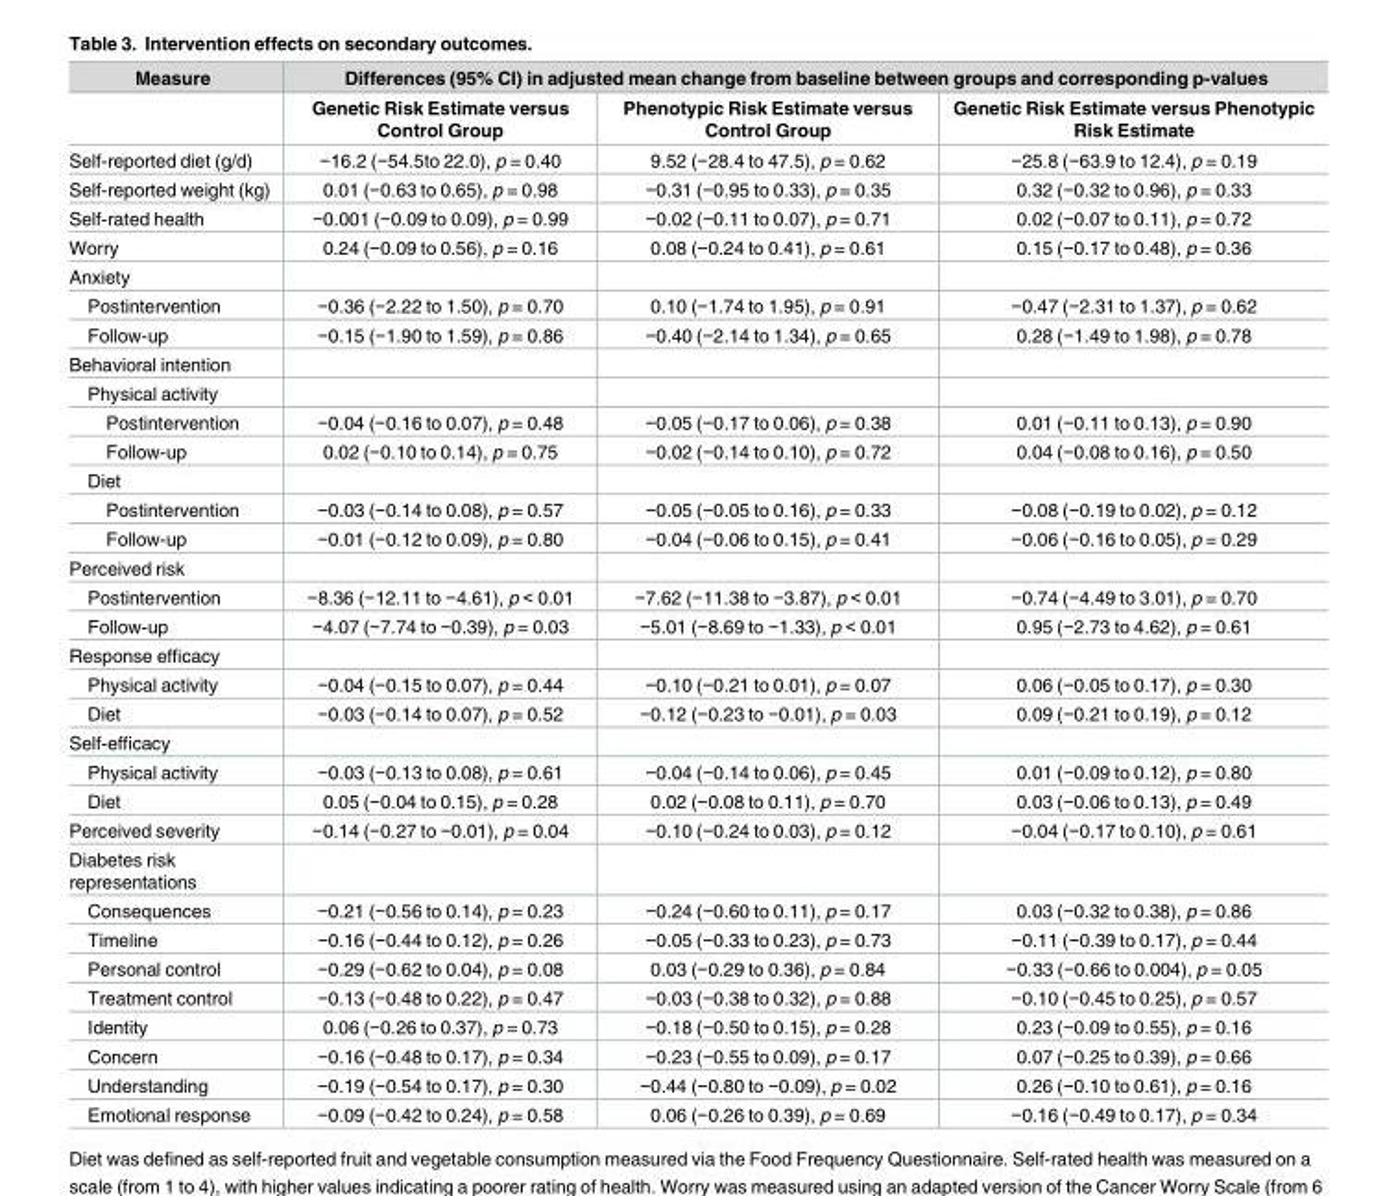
<table><thead><tr><td rowspan="2">Measure</td><td colspan="3">Differences (95% CI) in adjusted mean change from baseline between groups and corresponding p-values</td></tr><tr><td>Genetic Risk Estimate versus Control Group</td><td>Phenotypic Risk Estimate versus Control Group</td><td>Genetic Risk Estimate versus Phenotypic Risk Estimate</td></tr></thead><tbody><tr><td>Self-reported diet (g/d)</td><td>−16.2 (−54.5to 22.0), p = 0.40</td><td>9.52 (−28.4 to 47.5), p = 0.62</td><td>−25.8 (−63.9 to 12.4), p = 0.19</td></tr><tr><td>Self-reported weight (kg)</td><td>0.01 (−0.63 to 0.65), p = 0.98</td><td>−0.31 (−0.95 to 0.33), p = 0.35</td><td>0.32 (−0.32 to 0.96), p = 0.33</td></tr><tr><td>Self-rated health</td><td>−0.001 (−0.09 to 0.09), p = 0.99</td><td>−0.02 (−0.11 to 0.07), p = 0.71</td><td>0.02 (−0.07 to 0.11), p = 0.72</td></tr><tr><td>Worry</td><td>0.24 (−0.09 to 0.56), p = 0.16</td><td>0.08 (−0.24 to 0.41), p = 0.61</td><td>0.15 (−0.17 to 0.48), p = 0.36</td></tr><tr><td colspan="4">Anxiety</td></tr><tr><td>Postintervention</td><td>−0.36 (−2.22 to 1.50), p = 0.70</td><td>0.10 (−1.74 to 1.95), p = 0.91</td><td>−0.47 (−2.31 to 1.37), p = 0.62</td></tr><tr><td>Follow-up</td><td>−0.15 (−1.90 to 1.59), p = 0.86</td><td>−0.40 (−2.14 to 1.34), p = 0.65</td><td>0.28 (−1.49 to 1.98), p = 0.78</td></tr><tr><td colspan="4">Behavioral intention</td></tr><tr><td colspan="4">Physical activity</td></tr><tr><td>Postintervention</td><td>−0.04 (−0.16 to 0.07), p = 0.48</td><td>−0.05 (−0.17 to 0.06), p = 0.38</td><td>0.01 (−0.11 to 0.13), p = 0.90</td></tr><tr><td>Follow-up</td><td>0.02 (−0.10 to 0.14), p = 0.75</td><td>−0.02 (−0.14 to 0.10), p = 0.72</td><td>0.04 (−0.08 to 0.16), p = 0.50</td></tr><tr><td colspan="4">Diet</td></tr><tr><td>Postintervention</td><td>−0.03 (−0.14 to 0.08), p = 0.57</td><td>−0.05 (−0.05 to 0.16), p = 0.33</td><td>−0.08 (−0.19 to 0.02), p = 0.12</td></tr><tr><td>Follow-up</td><td>−0.01 (−0.12 to 0.09), p = 0.80</td><td>−0.04 (−0.06 to 0.15), p = 0.41</td><td>−0.06 (−0.16 to 0.05), p = 0.29</td></tr><tr><td colspan="4">Perceived risk</td></tr><tr><td>Postintervention</td><td>−8.36 (−12.11 to −4.61), p &lt; 0.01</td><td>−7.62 (−11.38 to −3.87), p &lt; 0.01</td><td>−0.74 (−4.49 to 3.01), p = 0.70</td></tr><tr><td>Follow-up</td><td>−4.07 (−7.74 to −0.39), p = 0.03</td><td>−5.01 (−8.69 to −1.33), p &lt; 0.01</td><td>0.95 (−2.73 to 4.62), p = 0.61</td></tr><tr><td colspan="4">Response efficacy</td></tr><tr><td>Physical activity</td><td>−0.04 (−0.15 to 0.07), p = 0.44</td><td>−0.10 (−0.21 to 0.01), p = 0.07</td><td>0.06 (−0.05 to 0.17), p = 0.30</td></tr><tr><td>Diet</td><td>−0.03 (−0.14 to 0.07), p = 0.52</td><td>−0.12 (−0.23 to −0.01), p = 0.03</td><td>0.09 (−0.21 to 0.19), p = 0.12</td></tr><tr><td colspan="4">Self-efficacy</td></tr><tr><td>Physical activity</td><td>−0.03 (−0.13 to 0.08), p = 0.61</td><td>−0.04 (−0.14 to 0.06), p = 0.45</td><td>0.01 (−0.09 to 0.12), p = 0.80</td></tr><tr><td>Diet</td><td>0.05 (−0.04 to 0.15), p = 0.28</td><td>0.02 (−0.08 to 0.11), p = 0.70</td><td>0.03 (−0.06 to 0.13), p = 0.49</td></tr><tr><td>Perceived severity</td><td>−0.14 (−0.27 to −0.01), p = 0.04</td><td>−0.10 (−0.24 to 0.03), p = 0.12</td><td>−0.04 (−0.17 to 0.10), p = 0.61</td></tr><tr><td colspan="4">Diabetes risk representations</td></tr><tr><td>Consequences</td><td>−0.21 (−0.56 to 0.14), p = 0.23</td><td>−0.24 (−0.60 to 0.11), p = 0.17</td><td>0.03 (−0.32 to 0.38), p = 0.86</td></tr><tr><td>Timeline</td><td>−0.16 (−0.44 to 0.12), p = 0.26</td><td>−0.05 (−0.33 to 0.23), p = 0.73</td><td>−0.11 (−0.39 to 0.17), p = 0.44</td></tr><tr><td>Personal control</td><td>−0.29 (−0.62 to 0.04), p = 0.08</td><td>0.03 (−0.29 to 0.36), p = 0.84</td><td>−0.33 (−0.66 to 0.004), p = 0.05</td></tr><tr><td>Treatment control</td><td>−0.13 (−0.48 to 0.22), p = 0.47</td><td>−0.03 (−0.38 to 0.32), p = 0.88</td><td>−0.10 (−0.45 to 0.25), p = 0.57</td></tr><tr><td>Identity</td><td>0.06 (−0.26 to 0.37), p = 0.73</td><td>−0.18 (−0.50 to 0.15), p = 0.28</td><td>0.23 (−0.09 to 0.55), p = 0.16</td></tr><tr><td>Concern</td><td>−0.16 (−0.48 to 0.17), p = 0.34</td><td>−0.23 (−0.55 to 0.09), p = 0.17</td><td>0.07 (−0.25 to 0.39), p = 0.66</td></tr><tr><td>Understanding</td><td>−0.19 (−0.54 to 0.17), p = 0.30</td><td>−0.44 (−0.80 to −0.09), p = 0.02</td><td>0.26 (−0.10 to 0.61), p = 0.16</td></tr><tr><td>Emotional response</td><td>−0.09 (−0.42 to 0.24), p = 0.58</td><td>0.06 (−0.26 to 0.39), p = 0.69</td><td>−0.16 (−0.49 to 0.17), p = 0.34</td></tr></tbody></table>